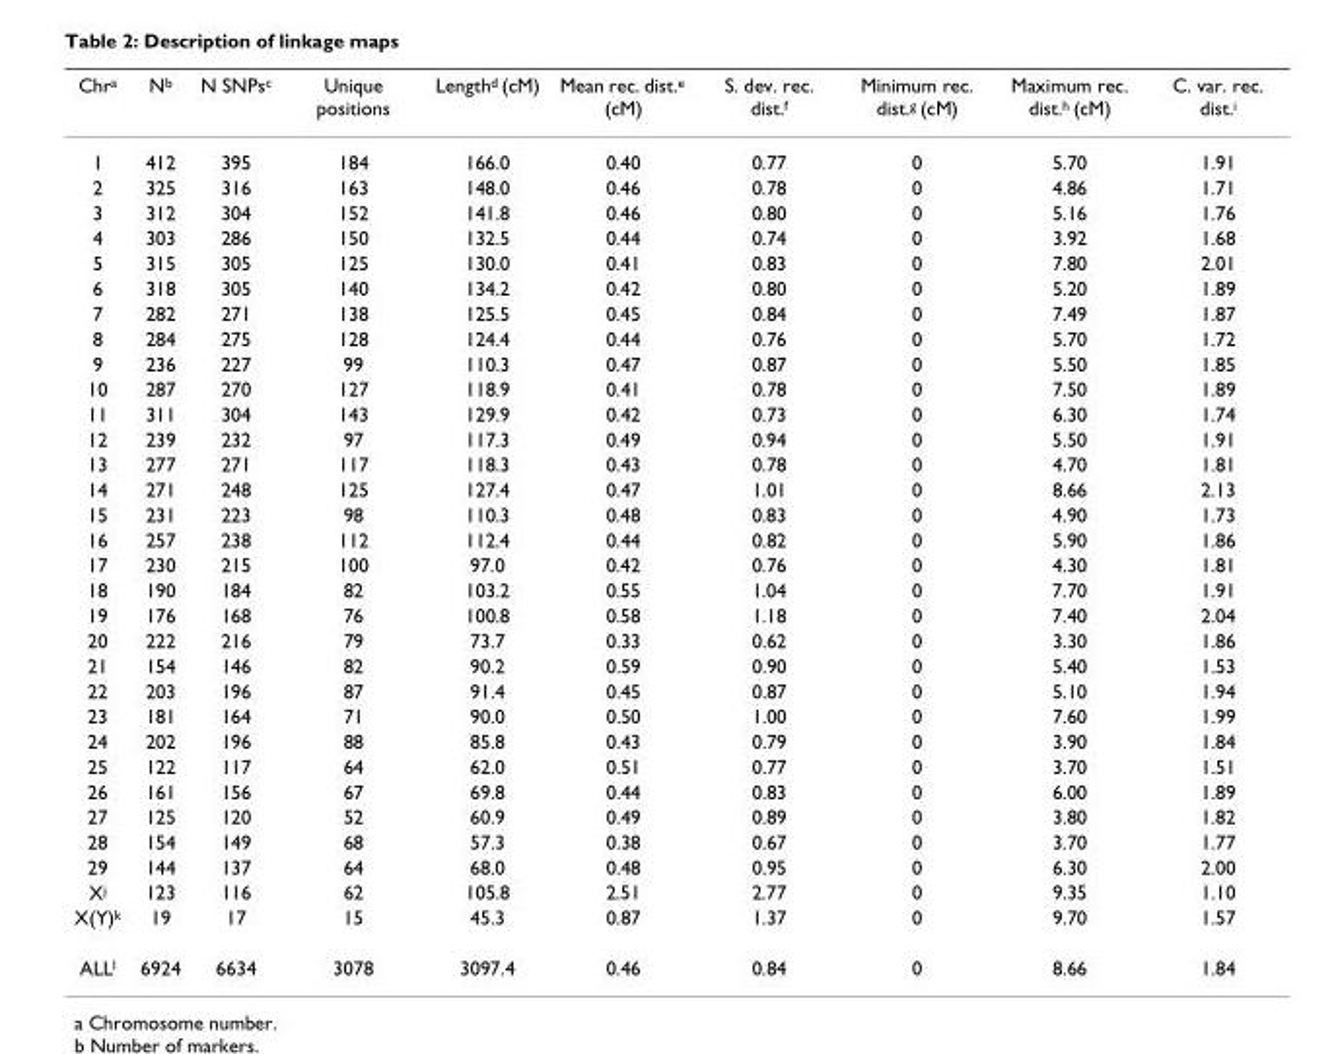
<table><thead><tr><td>Chr<sup>a</sup></td><td>N<sup>b</sup></td><td>N SNPs<sup>c</sup></td><td>Unique positions</td><td>Length<sup>d</sup> (cM)</td><td>Mean rec. dist.<sup>e</sup> (cM)</td><td>S. dev. rec. dist.<sup>f</sup></td><td>Minimum rec. dist.<sup>g</sup> (cM)</td><td>Maximum rec. dist.<sup>h</sup> (cM)</td><td>C. var. rec. dist.<sup>i</sup></td></tr></thead><tbody><tr><td>1</td><td>412</td><td>395</td><td>184</td><td>166.0</td><td>0.40</td><td>0.77</td><td>0</td><td>5.70</td><td>1.91</td></tr><tr><td>2</td><td>325</td><td>316</td><td>163</td><td>148.0</td><td>0.46</td><td>0.78</td><td>0</td><td>4.86</td><td>1.71</td></tr><tr><td>3</td><td>312</td><td>304</td><td>152</td><td>141.8</td><td>0.46</td><td>0.80</td><td>0</td><td>5.16</td><td>1.76</td></tr><tr><td>4</td><td>303</td><td>286</td><td>150</td><td>132.5</td><td>0.44</td><td>0.74</td><td>0</td><td>3.92</td><td>1.68</td></tr><tr><td>5</td><td>315</td><td>305</td><td>125</td><td>130.0</td><td>0.41</td><td>0.83</td><td>0</td><td>7.80</td><td>2.01</td></tr><tr><td>6</td><td>318</td><td>305</td><td>140</td><td>134.2</td><td>0.42</td><td>0.80</td><td>0</td><td>5.20</td><td>1.89</td></tr><tr><td>7</td><td>282</td><td>271</td><td>138</td><td>125.5</td><td>0.45</td><td>0.84</td><td>0</td><td>7.49</td><td>1.87</td></tr><tr><td>8</td><td>284</td><td>275</td><td>128</td><td>124.4</td><td>0.44</td><td>0.76</td><td>0</td><td>5.70</td><td>1.72</td></tr><tr><td>9</td><td>236</td><td>227</td><td>99</td><td>110.3</td><td>0.47</td><td>0.87</td><td>0</td><td>5.50</td><td>1.85</td></tr><tr><td>10</td><td>287</td><td>270</td><td>127</td><td>118.9</td><td>0.41</td><td>0.78</td><td>0</td><td>7.50</td><td>1.89</td></tr><tr><td>11</td><td>311</td><td>304</td><td>143</td><td>129.9</td><td>0.42</td><td>0.73</td><td>0</td><td>6.30</td><td>1.74</td></tr><tr><td>12</td><td>239</td><td>232</td><td>97</td><td>117.3</td><td>0.49</td><td>0.94</td><td>0</td><td>5.50</td><td>1.91</td></tr><tr><td>13</td><td>277</td><td>271</td><td>117</td><td>118.3</td><td>0.43</td><td>0.78</td><td>0</td><td>4.70</td><td>1.81</td></tr><tr><td>14</td><td>271</td><td>248</td><td>125</td><td>127.4</td><td>0.47</td><td>1.01</td><td>0</td><td>8.66</td><td>2.13</td></tr><tr><td>15</td><td>231</td><td>223</td><td>98</td><td>110.3</td><td>0.48</td><td>0.83</td><td>0</td><td>4.90</td><td>1.73</td></tr><tr><td>16</td><td>257</td><td>238</td><td>112</td><td>112.4</td><td>0.44</td><td>0.82</td><td>0</td><td>5.90</td><td>1.86</td></tr><tr><td>17</td><td>230</td><td>215</td><td>100</td><td>97.0</td><td>0.42</td><td>0.76</td><td>0</td><td>4.30</td><td>1.81</td></tr><tr><td>18</td><td>190</td><td>184</td><td>82</td><td>103.2</td><td>0.55</td><td>1.04</td><td>0</td><td>7.70</td><td>1.91</td></tr><tr><td>19</td><td>176</td><td>168</td><td>76</td><td>100.8</td><td>0.58</td><td>1.18</td><td>0</td><td>7.40</td><td>2.04</td></tr><tr><td>20</td><td>222</td><td>216</td><td>79</td><td>73.7</td><td>0.33</td><td>0.62</td><td>0</td><td>3.30</td><td>1.86</td></tr><tr><td>21</td><td>154</td><td>146</td><td>82</td><td>90.2</td><td>0.59</td><td>0.90</td><td>0</td><td>5.40</td><td>1.53</td></tr><tr><td>22</td><td>203</td><td>196</td><td>87</td><td>91.4</td><td>0.45</td><td>0.87</td><td>0</td><td>5.10</td><td>1.94</td></tr><tr><td>23</td><td>181</td><td>164</td><td>71</td><td>90.0</td><td>0.50</td><td>1.00</td><td>0</td><td>7.60</td><td>1.99</td></tr><tr><td>24</td><td>202</td><td>196</td><td>88</td><td>85.8</td><td>0.43</td><td>0.79</td><td>0</td><td>3.90</td><td>1.84</td></tr><tr><td>25</td><td>122</td><td>117</td><td>64</td><td>62.0</td><td>0.51</td><td>0.77</td><td>0</td><td>3.70</td><td>1.51</td></tr><tr><td>26</td><td>161</td><td>156</td><td>67</td><td>69.8</td><td>0.44</td><td>0.83</td><td>0</td><td>6.00</td><td>1.89</td></tr><tr><td>27</td><td>125</td><td>120</td><td>52</td><td>60.9</td><td>0.49</td><td>0.89</td><td>0</td><td>3.80</td><td>1.82</td></tr><tr><td>28</td><td>154</td><td>149</td><td>68</td><td>57.3</td><td>0.38</td><td>0.67</td><td>0</td><td>3.70</td><td>1.77</td></tr><tr><td>29</td><td>144</td><td>137</td><td>64</td><td>68.0</td><td>0.48</td><td>0.95</td><td>0</td><td>6.30</td><td>2.00</td></tr><tr><td>X<sup>j</sup></td><td>123</td><td>116</td><td>62</td><td>105.8</td><td>2.51</td><td>2.77</td><td>0</td><td>9.35</td><td>1.10</td></tr><tr><td>X(Y)<sup>k</sup></td><td>19</td><td>17</td><td>15</td><td>45.3</td><td>0.87</td><td>1.37</td><td>0</td><td>9.70</td><td>1.57</td></tr><tr><td>ALL<sup>l</sup></td><td>6924</td><td>6634</td><td>3078</td><td>3097.4</td><td>0.46</td><td>0.84</td><td>0</td><td>8.66</td><td>1.84</td></tr></tbody></table>